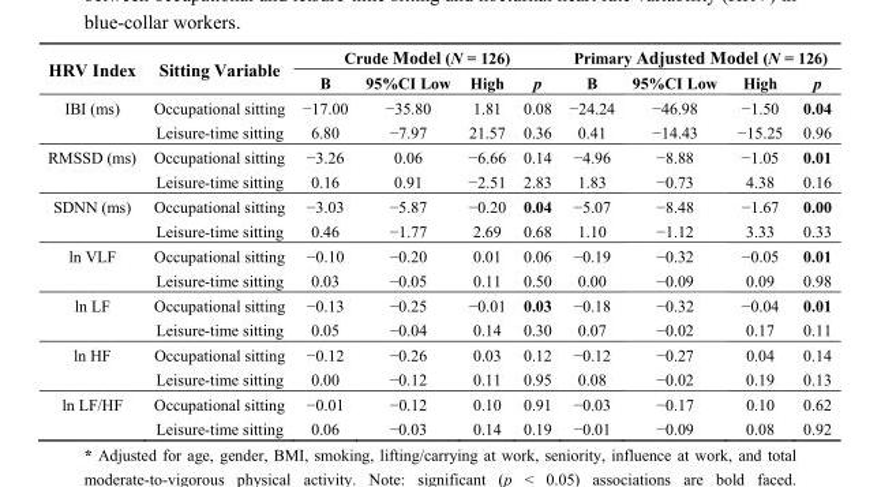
<table><thead><tr><td rowspan="2">HRV Index</td><td rowspan="2">Sitting Variable</td><td colspan="4">Crude Model (N = 126)</td><td colspan="4">Primary Adjusted Model (N = 126)</td></tr><tr><td>B</td><td>95%CI Low</td><td>High</td><td>p</td><td>B</td><td>95%CI Low</td><td>High</td><td>p</td></tr></thead><tbody><tr><td rowspan="2">IBI (ms)</td><td>Occupational sitting</td><td>−17.00</td><td>−35.80</td><td>1.81</td><td>0.08</td><td>−24.24</td><td>−46.98</td><td>−1.50</td><td>0.04</td></tr><tr><td>Leisure-time sitting</td><td>6.80</td><td>−7.97</td><td>21.57</td><td>0.36</td><td>0.41</td><td>−14.43</td><td>−15.25</td><td>0.96</td></tr><tr><td rowspan="2">RMSSD (ms)</td><td>Occupational sitting</td><td>−3.26</td><td>0.06</td><td>−6.66</td><td>0.14</td><td>−4.96</td><td>−8.88</td><td>−1.05</td><td>0.01</td></tr><tr><td>Leisure-time sitting</td><td>0.16</td><td>0.91</td><td>−2.51</td><td>2.83</td><td>1.83</td><td>−0.73</td><td>4.38</td><td>0.16</td></tr><tr><td rowspan="2">SDNN (ms)</td><td>Occupational sitting</td><td>−3.03</td><td>−5.87</td><td>−0.20</td><td>0.04</td><td>−5.07</td><td>−8.48</td><td>−1.67</td><td>0.00</td></tr><tr><td>Leisure-time sitting</td><td>0.46</td><td>−1.77</td><td>2.69</td><td>0.68</td><td>1.10</td><td>−1.12</td><td>3.33</td><td>0.33</td></tr><tr><td rowspan="2">ln VLF</td><td>Occupational sitting</td><td>−0.10</td><td>−0.20</td><td>0.01</td><td>0.06</td><td>−0.19</td><td>−0.32</td><td>−0.05</td><td>0.01</td></tr><tr><td>Leisure-time sitting</td><td>0.03</td><td>−0.05</td><td>0.11</td><td>0.50</td><td>0.00</td><td>−0.09</td><td>0.09</td><td>0.98</td></tr><tr><td rowspan="2">ln LF</td><td>Occupational sitting</td><td>−0.13</td><td>−0.25</td><td>−0.01</td><td>0.03</td><td>−0.18</td><td>−0.32</td><td>−0.04</td><td>0.01</td></tr><tr><td>Leisure-time sitting</td><td>0.05</td><td>−0.04</td><td>0.14</td><td>0.30</td><td>0.07</td><td>−0.02</td><td>0.17</td><td>0.11</td></tr><tr><td rowspan="2">ln HF</td><td>Occupational sitting</td><td>−0.12</td><td>−0.26</td><td>0.03</td><td>0.12</td><td>−0.12</td><td>−0.27</td><td>0.04</td><td>0.14</td></tr><tr><td>Leisure-time sitting</td><td>0.00</td><td>−0.12</td><td>0.11</td><td>0.95</td><td>0.08</td><td>−0.02</td><td>0.19</td><td>0.13</td></tr><tr><td rowspan="2">ln LF/HF</td><td>Occupational sitting</td><td>−0.01</td><td>−0.12</td><td>0.10</td><td>0.91</td><td>−0.03</td><td>−0.17</td><td>0.10</td><td>0.62</td></tr><tr><td>Leisure-time sitting</td><td>0.06</td><td>−0.03</td><td>0.14</td><td>0.19</td><td>−0.01</td><td>−0.09</td><td>0.08</td><td>0.92</td></tr></tbody></table>